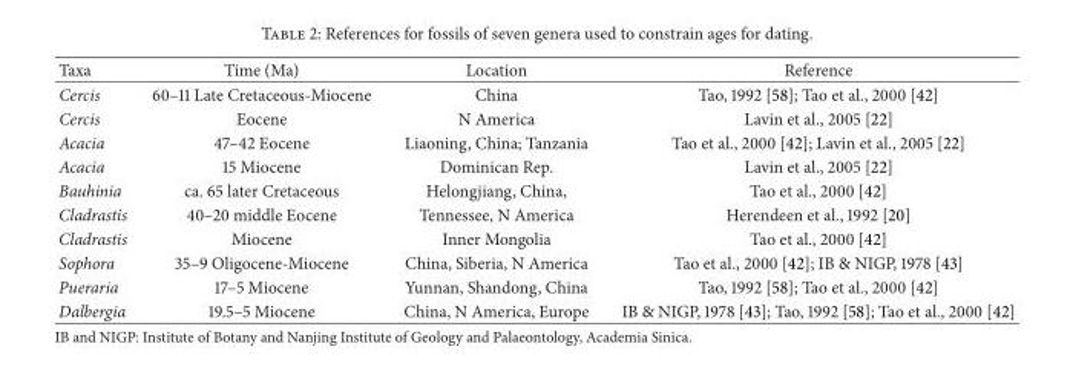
<table><thead><tr><td>Taxa</td><td>Time (Ma)</td><td>Location</td><td>Reference</td></tr></thead><tbody><tr><td>Cercis</td><td>60–11 Late Cretaceous-Miocene</td><td>China</td><td>Tao, 1992 [58]; Tao et al., 2000 [42]</td></tr><tr><td>Cercis</td><td>Eocene</td><td>N America</td><td>Lavin et al., 2005 [22]</td></tr><tr><td>Acacia</td><td>47–42 Eocene</td><td>Liaoning, China; Tanzania</td><td>Tao et al., 2000 [42]; Lavin et al., 2005 [22]</td></tr><tr><td>Acacia</td><td>15 Miocene</td><td>Dominican Rep.</td><td>Lavin et al., 2005 [22]</td></tr><tr><td>Bauhinia</td><td>ca. 65 later Cretaceous</td><td>Helongjiang, China,</td><td>Tao et al., 2000 [42]</td></tr><tr><td>Cladrastis</td><td>40–20 middle Eocene</td><td>Tennessee, N America</td><td>Herendeen et al., 1992 [20]</td></tr><tr><td>Cladrastis</td><td>Miocene</td><td>Inner Mongolia</td><td>Tao et al., 2000 [42]</td></tr><tr><td>Sophora</td><td>35–9 Oligocene-Miocene</td><td>China, Siberia, N America</td><td>Tao et al., 2000 [42]; IB &amp; NIGP, 1978 [43]</td></tr><tr><td>Pueraria</td><td>17–5 Miocene</td><td>Yunnan, Shandong, China</td><td>Tao, 1992 [58]; Tao et al., 2000 [42]</td></tr><tr><td>Dalbergia</td><td>19.5–5 Miocene</td><td>China, N America, Europe</td><td>IB &amp; NIGP, 1978 [43]; Tao, 1992 [58]; Tao et al., 2000 [42]</td></tr></tbody></table>